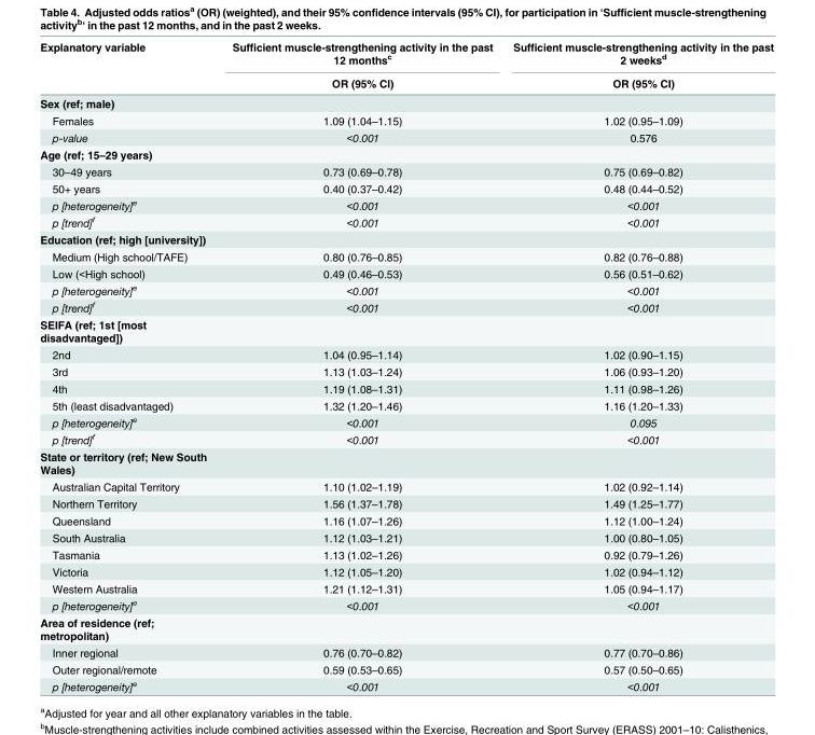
<table><thead><tr><td rowspan="2">Explanatory variable</td><td rowspan="2">Sufficient muscle-strengthening activity in the past 12 months<sup>c</sup> OR (95% CI)</td><td rowspan="2">Sufficient muscle-strengthening activity in the past 2 weeks<sup>d</sup> OR (95% CI)</td></tr><tr></tr></thead><tbody><tr><td colspan="3">Sex (ref; male)</td></tr><tr><td>Females</td><td>1.09 (1.04–1.15)</td><td>1.02 (0.95–1.09)</td></tr><tr><td>p-value</td><td>&lt;0.001</td><td>0.576</td></tr><tr><td colspan="3">Age (ref; 15–29 years)</td></tr><tr><td>30–49 years</td><td>0.73 (0.69–0.78)</td><td>0.75 (0.69–0.82)</td></tr><tr><td>50+ years</td><td>0.40 (0.37–0.42)</td><td>0.48 (0.44–0.52)</td></tr><tr><td>p [heterogeneity]<sup>e</sup></td><td>&lt;0.001</td><td>&lt;0.001</td></tr><tr><td>p [trend]<sup>f</sup></td><td>&lt;0.001</td><td>&lt;0.001</td></tr><tr><td colspan="3">Education (ref; high [university])</td></tr><tr><td>Medium (High school/TAFE)</td><td>0.80 (0.76–0.85)</td><td>0.82 (0.76–0.88)</td></tr><tr><td>Low (&lt;High school)</td><td>0.49 (0.46–0.53)</td><td>0.56 (0.51–0.62)</td></tr><tr><td>p [heterogeneity]<sup>e</sup></td><td>&lt;0.001</td><td>&lt;0.001</td></tr><tr><td>p [trend]<sup>f</sup></td><td>&lt;0.001</td><td>&lt;0.001</td></tr><tr><td colspan="3">SEIFA (ref; 1st [most disadvantaged])</td></tr><tr><td>2nd</td><td>1.04 (0.95–1.14)</td><td>1.02 (0.90–1.15)</td></tr><tr><td>3rd</td><td>1.13 (1.03–1.24)</td><td>1.06 (0.93–1.20)</td></tr><tr><td>4th</td><td>1.19 (1.08–1.31)</td><td>1.11 (0.98–1.26)</td></tr><tr><td>5th (least disadvantaged)</td><td>1.32 (1.20–1.46)</td><td>1.16 (1.20–1.33)</td></tr><tr><td>p [heterogeneity]<sup>e</sup></td><td>&lt;0.001</td><td>0.095</td></tr><tr><td>p [trend]<sup>f</sup></td><td>&lt;0.001</td><td>&lt;0.001</td></tr><tr><td colspan="3">State or territory (ref; New South Wales)</td></tr><tr><td>Australian Capital Territory</td><td>1.10 (1.02–1.19)</td><td>1.02 (0.92–1.14)</td></tr><tr><td>Northern Territory</td><td>1.56 (1.37–1.78)</td><td>1.49 (1.25–1.77)</td></tr><tr><td>Queensland</td><td>1.16 (1.07–1.26)</td><td>1.12 (1.00–1.24)</td></tr><tr><td>South Australia</td><td>1.12 (1.03–1.21)</td><td>1.00 (0.80–1.05)</td></tr><tr><td>Tasmania</td><td>1.13 (1.02–1.26)</td><td>0.92 (0.79–1.26)</td></tr><tr><td>Victoria</td><td>1.12 (1.05–1.20)</td><td>1.02 (0.94–1.12)</td></tr><tr><td>Western Australia</td><td>1.21 (1.12–1.31)</td><td>1.05 (0.94–1.17)</td></tr><tr><td>p [heterogeneity]<sup>e</sup></td><td>&lt;0.001</td><td>&lt;0.001</td></tr><tr><td colspan="3">Area of residence (ref; metropolitan)</td></tr><tr><td>Inner regional</td><td>0.76 (0.70–0.82)</td><td>0.77 (0.70–0.86)</td></tr><tr><td>Outer regional/remote</td><td>0.59 (0.53–0.65)</td><td>0.57 (0.50–0.65)</td></tr><tr><td>p [heterogeneity]<sup>e</sup></td><td>&lt;0.001</td><td>&lt;0.001</td></tr></tbody></table>